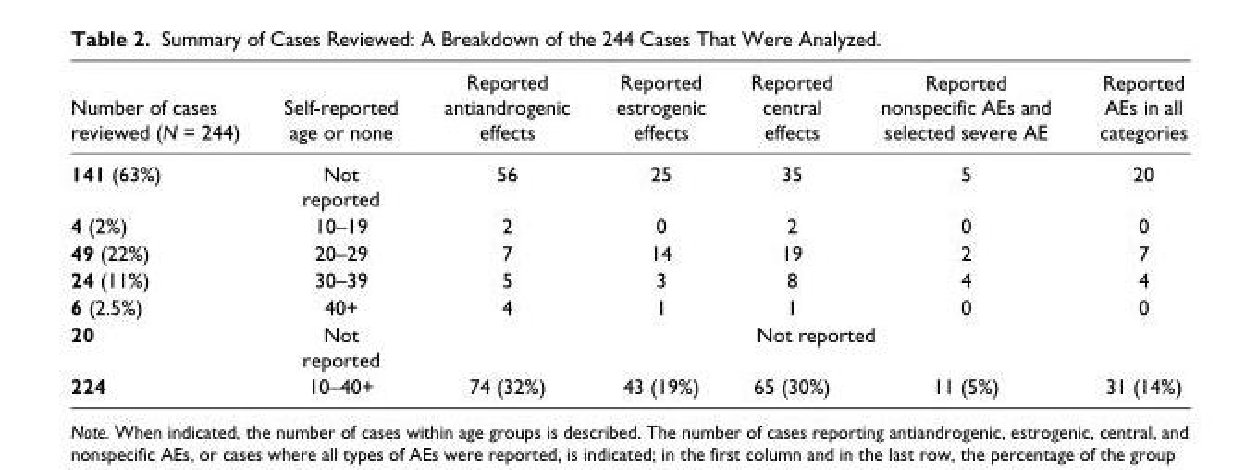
<table><thead><tr><td>Number of cases reviewed (N = 244)</td><td>Self-reported age or none</td><td>Reported antiandrogenic effects</td><td>Reported estrogenic effects</td><td>Reported central effects</td><td>Reported nonspecific AEs and selected severe AE</td><td>Reported AEs in all categories</td></tr></thead><tbody><tr><td>141 (63%)</td><td>Not reported</td><td>56</td><td>25</td><td>35</td><td>5</td><td>20</td></tr><tr><td>4 (2%)</td><td>10–19</td><td>2</td><td>0</td><td>2</td><td>0</td><td>0</td></tr><tr><td>49 (22%)</td><td>20–29</td><td>7</td><td>14</td><td>19</td><td>2</td><td>7</td></tr><tr><td>24 (11%)</td><td>30–39</td><td>5</td><td>3</td><td>8</td><td>4</td><td>4</td></tr><tr><td>6 (2.5%)</td><td>40+</td><td>4</td><td>1</td><td>1</td><td>0</td><td>0</td></tr><tr><td>20</td><td>Not reported</td><td colspan="5">Not reported</td></tr><tr><td>224</td><td>10–40+</td><td>74 (32%)</td><td>43 (19%)</td><td>65 (30%)</td><td>11 (5%)</td><td>31 (14%)</td></tr></tbody></table>